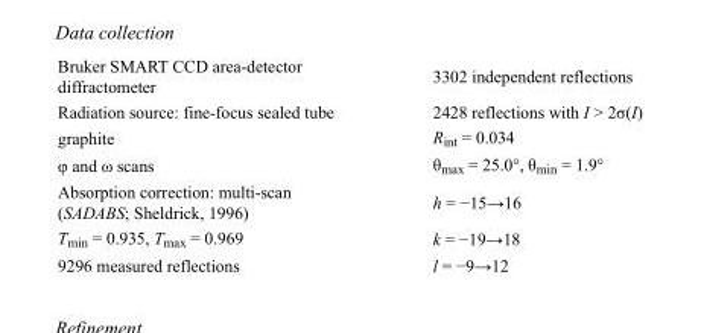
<table><tbody><tr><td>Bruker SMART CCD area-detector diffractometer</td><td>3302 independent reflections</td></tr><tr><td>Radiation source: fine-focus sealed tube</td><td>2428 reflections with I &gt; 2σ(I)</td></tr><tr><td>graphite</td><td>R<sub>int</sub> = 0.034</td></tr><tr><td>φ and ω scans</td><td>θ<sub>max</sub> = 25.0°, θ<sub>min</sub> = 1.9°</td></tr><tr><td>Absorption correction: multi-scan (SADABS; Sheldrick, 1996)</td><td>h = −15→16</td></tr><tr><td>T<sub>min</sub> = 0.935, T<sub>max</sub> = 0.969</td><td>k = −19→18</td></tr><tr><td>9296 measured reflections</td><td>l = −9→12</td></tr></tbody></table>